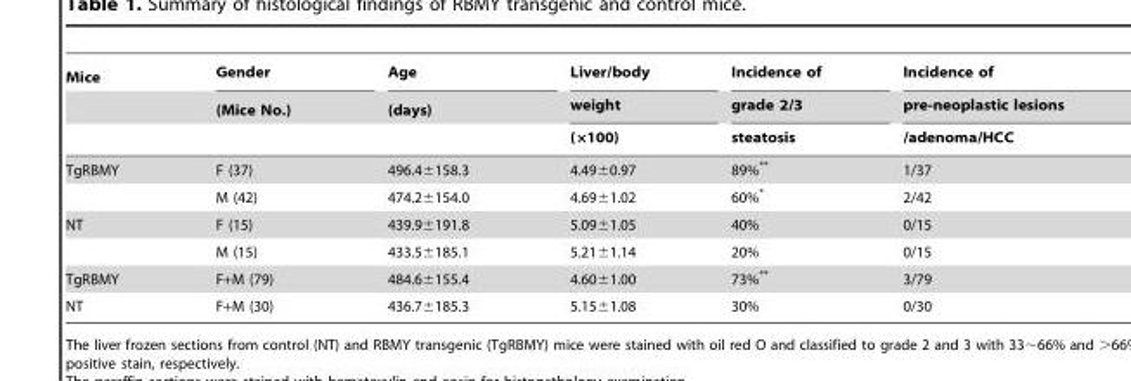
<table><thead><tr><td rowspan="3">Mice</td><td rowspan="3">Gender (Mice No.)</td><td rowspan="3">Age (days)</td><td rowspan="3">Liver/body weight (×100)</td><td rowspan="3">Incidence of grade 2/3 steatosis</td><td rowspan="3">Incidence of pre-neoplastic lesions /adenoma/HCC</td></tr><tr></tr><tr></tr></thead><tbody><tr><td rowspan="2">TgRBMY</td><td>F (37)</td><td>496.4±158.3</td><td>4.49±0.97</td><td>89%**</td><td>1/37</td></tr><tr><td>M (42)</td><td>474.2±154.0</td><td>4.69±1.02</td><td>60%*</td><td>2/42</td></tr><tr><td rowspan="2">NT</td><td>F (15)</td><td>439.9±191.8</td><td>5.09±1.05</td><td>40%</td><td>0/15</td></tr><tr><td>M (15)</td><td>433.5±185.1</td><td>5.21±1.14</td><td>20%</td><td>0/15</td></tr><tr><td>TgRBMY</td><td>F+M (79)</td><td>484.6±155.4</td><td>4.60±1.00</td><td>73%**</td><td>3/79</td></tr><tr><td>NT</td><td>F+M (30)</td><td>436.7±185.3</td><td>5.15±1.08</td><td>30%</td><td>0/30</td></tr></tbody></table>